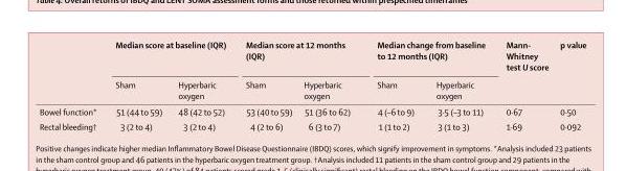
<table><thead><tr><td rowspan="2"></td><td colspan="2">Median score at baseline (IQR)</td><td colspan="2">Median score at 12 months (IQR)</td><td colspan="2">Median change from baseline to 12 months (IQR)</td><td rowspan="2">Mann- Whitney test U score</td><td rowspan="2">p value</td></tr><tr><td>Sham</td><td>Hyperbaric oxygen</td><td>Sham</td><td>Hyperbaric oxygen</td><td>Sham</td><td>Hyperbaric oxygen</td></tr></thead><tbody><tr><td>Bowel function*</td><td>51 (44 to 59)</td><td>48 (42 to 52)</td><td>53 (40 to 59)</td><td>51 (36 to 62)</td><td>4 (–6 to 9)</td><td>3·5 (–3 to 11)</td><td>0·67</td><td>0·50</td></tr><tr><td>Rectal bleeding†</td><td>3 (2 to 4)</td><td>3 (2 to 4)</td><td>4 (2 to 6)</td><td>6 (3 to 7)</td><td>1 (1 to 2)</td><td>3 (1 to 3)</td><td>1·69</td><td>0·092</td></tr></tbody></table>